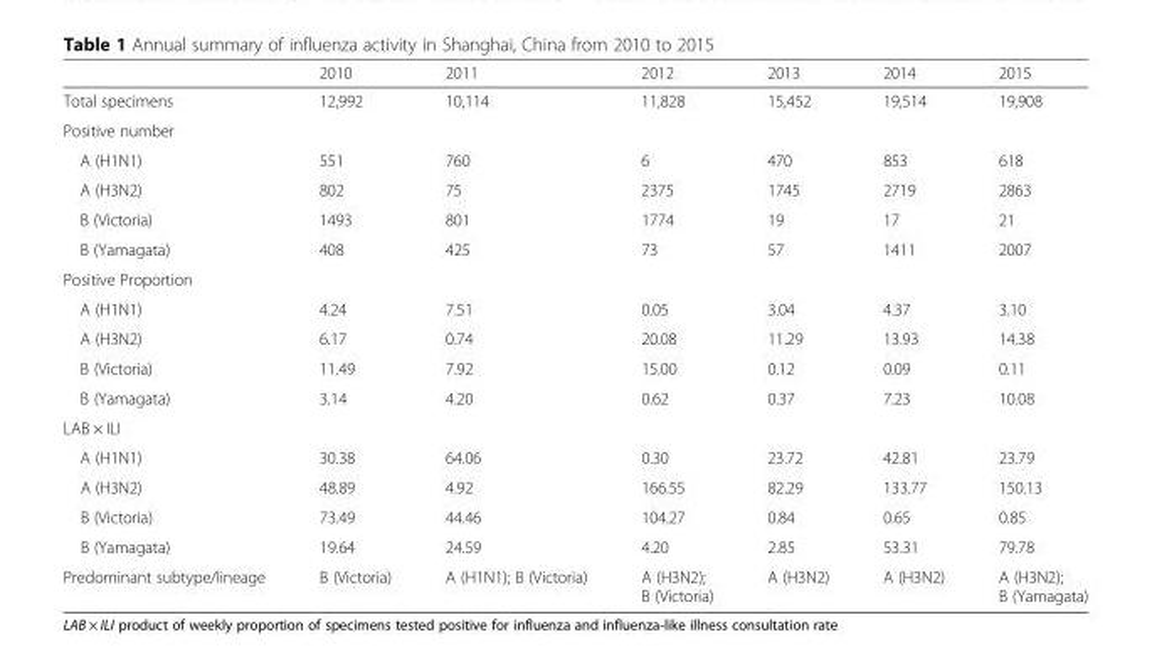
<table><thead><tr><td></td><td>2010</td><td>2011</td><td>2012</td><td>2013</td><td>2014</td><td>2015</td></tr></thead><tbody><tr><td>Total specimens</td><td>12,992</td><td>10,114</td><td>11,828</td><td>15,452</td><td>19,514</td><td>19,908</td></tr><tr><td colspan="7">Positive number</td></tr><tr><td>A (H1N1)</td><td>551</td><td>760</td><td>6</td><td>470</td><td>853</td><td>618</td></tr><tr><td>A (H3N2)</td><td>802</td><td>75</td><td>2375</td><td>1745</td><td>2719</td><td>2863</td></tr><tr><td>B (Victoria)</td><td>1493</td><td>801</td><td>1774</td><td>19</td><td>17</td><td>21</td></tr><tr><td>B (Yamagata)</td><td>408</td><td>425</td><td>73</td><td>57</td><td>1411</td><td>2007</td></tr><tr><td colspan="7">Positive Proportion</td></tr><tr><td>A (H1N1)</td><td>4.24</td><td>7.51</td><td>0.05</td><td>3.04</td><td>4.37</td><td>3.10</td></tr><tr><td>A (H3N2)</td><td>6.17</td><td>0.74</td><td>20.08</td><td>11.29</td><td>13.93</td><td>14.38</td></tr><tr><td>B (Victoria)</td><td>11.49</td><td>7.92</td><td>15.00</td><td>0.12</td><td>0.09</td><td>0.11</td></tr><tr><td>B (Yamagata)</td><td>3.14</td><td>4.20</td><td>0.62</td><td>0.37</td><td>7.23</td><td>10.08</td></tr><tr><td colspan="7">LAB × ILI</td></tr><tr><td>A (H1N1)</td><td>30.38</td><td>64.06</td><td>0.30</td><td>23.72</td><td>42.81</td><td>23.79</td></tr><tr><td>A (H3N2)</td><td>48.89</td><td>4.92</td><td>166.55</td><td>82.29</td><td>133.77</td><td>150.13</td></tr><tr><td>B (Victoria)</td><td>73.49</td><td>44.46</td><td>104.27</td><td>0.84</td><td>0.65</td><td>0.85</td></tr><tr><td>B (Yamagata)</td><td>19.64</td><td>24.59</td><td>4.20</td><td>2.85</td><td>53.31</td><td>79.78</td></tr><tr><td>Predominant subtype/lineage</td><td>B (Victoria)</td><td>A (H1N1); B (Victoria)</td><td>A (H3N2); B (Victoria)</td><td>A (H3N2)</td><td>A (H3N2)</td><td>A (H3N2); B (Yamagata)</td></tr></tbody></table>